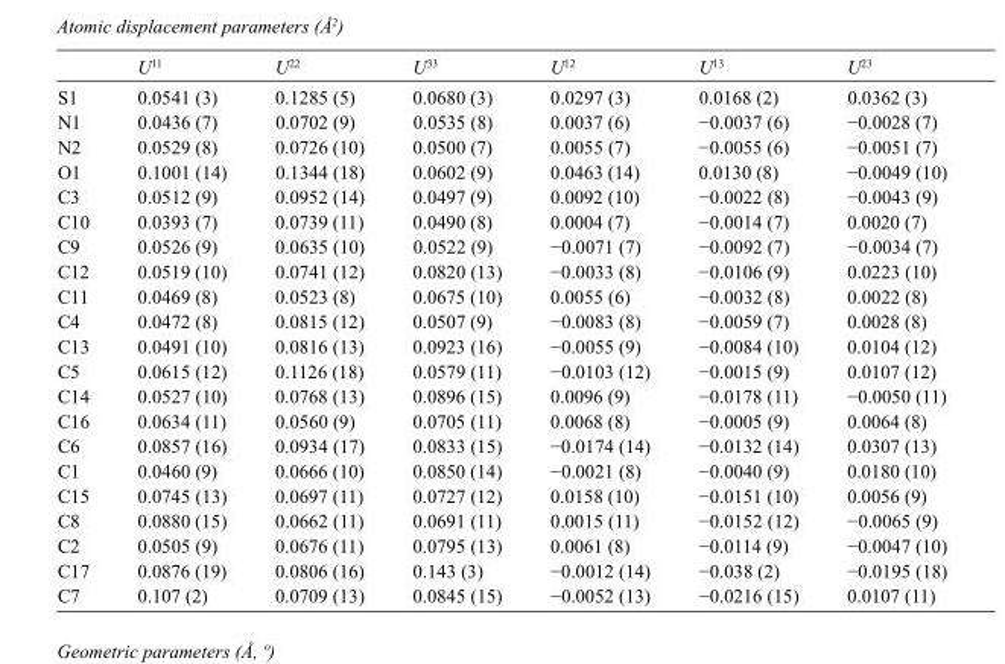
<table><thead><tr><td></td><td>U<sup>11</sup></td><td>U<sup>22</sup></td><td>U<sup>33</sup></td><td>U<sup>12</sup></td><td>U<sup>13</sup></td><td>U<sup>23</sup></td></tr></thead><tbody><tr><td>S1</td><td>0.0541 (3)</td><td>0.1285 (5)</td><td>0.0680 (3)</td><td>0.0297 (3)</td><td>0.0168 (2)</td><td>0.0362 (3)</td></tr><tr><td>N1</td><td>0.0436 (7)</td><td>0.0702 (9)</td><td>0.0535 (8)</td><td>0.0037 (6)</td><td>−0.0037 (6)</td><td>−0.0028 (7)</td></tr><tr><td>N2</td><td>0.0529 (8)</td><td>0.0726 (10)</td><td>0.0500 (7)</td><td>0.0055 (7)</td><td>−0.0055 (6)</td><td>−0.0051 (7)</td></tr><tr><td>O1</td><td>0.1001 (14)</td><td>0.1344 (18)</td><td>0.0602 (9)</td><td>0.0463 (14)</td><td>0.0130 (8)</td><td>−0.0049 (10)</td></tr><tr><td>C3</td><td>0.0512 (9)</td><td>0.0952 (14)</td><td>0.0497 (9)</td><td>0.0092 (10)</td><td>−0.0022 (8)</td><td>−0.0043 (9)</td></tr><tr><td>C10</td><td>0.0393 (7)</td><td>0.0739 (11)</td><td>0.0490 (8)</td><td>0.0004 (7)</td><td>−0.0014 (7)</td><td>0.0020 (7)</td></tr><tr><td>C9</td><td>0.0526 (9)</td><td>0.0635 (10)</td><td>0.0522 (9)</td><td>−0.0071 (7)</td><td>−0.0092 (7)</td><td>−0.0034 (7)</td></tr><tr><td>C12</td><td>0.0519 (10)</td><td>0.0741 (12)</td><td>0.0820 (13)</td><td>−0.0033 (8)</td><td>−0.0106 (9)</td><td>0.0223 (10)</td></tr><tr><td>C11</td><td>0.0469 (8)</td><td>0.0523 (8)</td><td>0.0675 (10)</td><td>0.0055 (6)</td><td>−0.0032 (8)</td><td>0.0022 (8)</td></tr><tr><td>C4</td><td>0.0472 (8)</td><td>0.0815 (12)</td><td>0.0507 (9)</td><td>−0.0083 (8)</td><td>−0.0059 (7)</td><td>0.0028 (8)</td></tr><tr><td>C13</td><td>0.0491 (10)</td><td>0.0816 (13)</td><td>0.0923 (16)</td><td>−0.0055 (9)</td><td>−0.0084 (10)</td><td>0.0104 (12)</td></tr><tr><td>C5</td><td>0.0615 (12)</td><td>0.1126 (18)</td><td>0.0579 (11)</td><td>−0.0103 (12)</td><td>−0.0015 (9)</td><td>0.0107 (12)</td></tr><tr><td>C14</td><td>0.0527 (10)</td><td>0.0768 (13)</td><td>0.0896 (15)</td><td>0.0096 (9)</td><td>−0.0178 (11)</td><td>−0.0050 (11)</td></tr><tr><td>C16</td><td>0.0634 (11)</td><td>0.0560 (9)</td><td>0.0705 (11)</td><td>0.0068 (8)</td><td>−0.0005 (9)</td><td>0.0064 (8)</td></tr><tr><td>C6</td><td>0.0857 (16)</td><td>0.0934 (17)</td><td>0.0833 (15)</td><td>−0.0174 (14)</td><td>−0.0132 (14)</td><td>0.0307 (13)</td></tr><tr><td>C1</td><td>0.0460 (9)</td><td>0.0666 (10)</td><td>0.0850 (14)</td><td>−0.0021 (8)</td><td>−0.0040 (9)</td><td>0.0180 (10)</td></tr><tr><td>C15</td><td>0.0745 (13)</td><td>0.0697 (11)</td><td>0.0727 (12)</td><td>0.0158 (10)</td><td>−0.0151 (10)</td><td>0.0056 (9)</td></tr><tr><td>C8</td><td>0.0880 (15)</td><td>0.0662 (11)</td><td>0.0691 (11)</td><td>0.0015 (11)</td><td>−0.0152 (12)</td><td>−0.0065 (9)</td></tr><tr><td>C2</td><td>0.0505 (9)</td><td>0.0676 (11)</td><td>0.0795 (13)</td><td>0.0061 (8)</td><td>−0.0114 (9)</td><td>−0.0047 (10)</td></tr><tr><td>C17</td><td>0.0876 (19)</td><td>0.0806 (16)</td><td>0.143 (3)</td><td>−0.0012 (14)</td><td>−0.038 (2)</td><td>−0.0195 (18)</td></tr><tr><td>C7</td><td>0.107 (2)</td><td>0.0709 (13)</td><td>0.0845 (15)</td><td>−0.0052 (13)</td><td>−0.0216 (15)</td><td>0.0107 (11)</td></tr></tbody></table>